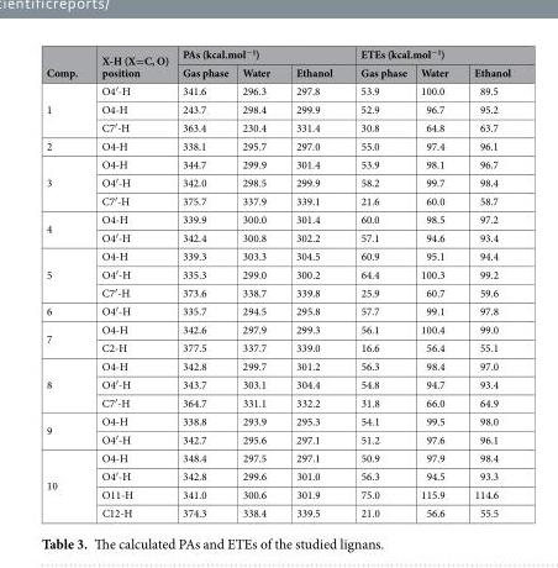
<table><thead><tr><td rowspan="2">Comp.</td><td rowspan="2">X-H (X=C, O) position</td><td colspan="3">PAs (kcal.mol<sup>−1</sup>)</td><td colspan="3">ETEs (kcal.mol<sup>−1</sup>)</td></tr><tr><td>Gas phase</td><td>Water</td><td>Ethanol</td><td>Gas phase</td><td>Water</td><td>Ethanol</td></tr></thead><tbody><tr><td rowspan="3">1</td><td>O4′-H</td><td>341.6</td><td>296.3</td><td>297.8</td><td>53.9</td><td>100.0</td><td>89.5</td></tr><tr><td>O4-H</td><td>243.7</td><td>298.4</td><td>299.9</td><td>52.9</td><td>96.7</td><td>95.2</td></tr><tr><td>C7′-H</td><td>363.4</td><td>230.4</td><td>331.4</td><td>30.8</td><td>64.8</td><td>63.7</td></tr><tr><td>2</td><td>O4-H</td><td>338.1</td><td>295.7</td><td>297.0</td><td>55.0</td><td>97.4</td><td>96.1</td></tr><tr><td rowspan="3">3</td><td>O4-H</td><td>344.7</td><td>299.9</td><td>301.4</td><td>53.9</td><td>98.1</td><td>96.7</td></tr><tr><td>O4′-H</td><td>342.0</td><td>298.5</td><td>299.9</td><td>58.2</td><td>99.7</td><td>98.4</td></tr><tr><td>C7′-H</td><td>375.7</td><td>337.9</td><td>339.1</td><td>21.6</td><td>60.0</td><td>58.7</td></tr><tr><td rowspan="2">4</td><td>O4-H</td><td>339.9</td><td>300.0</td><td>301.4</td><td>60.0</td><td>98.5</td><td>97.2</td></tr><tr><td>O4′-H</td><td>342.4</td><td>300.8</td><td>302.2</td><td>57.1</td><td>94.6</td><td>93.4</td></tr><tr><td rowspan="3">5</td><td>O4-H</td><td>339.3</td><td>303.3</td><td>304.5</td><td>60.9</td><td>95.1</td><td>94.4</td></tr><tr><td>O4′-H</td><td>335.3</td><td>299.0</td><td>300.2</td><td>64.4</td><td>100.3</td><td>99.2</td></tr><tr><td>C7′-H</td><td>373.6</td><td>338.7</td><td>339.8</td><td>25.9</td><td>60.7</td><td>59.6</td></tr><tr><td>6</td><td>O4′-H</td><td>335.7</td><td>294.5</td><td>295.8</td><td>57.7</td><td>99.1</td><td>97.8</td></tr><tr><td rowspan="2">7</td><td>O4-H</td><td>342.6</td><td>297.9</td><td>299.3</td><td>56.1</td><td>100.4</td><td>99.0</td></tr><tr><td>C2-H</td><td>377.5</td><td>337.7</td><td>339.0</td><td>16.6</td><td>56.4</td><td>55.1</td></tr><tr><td rowspan="3">8</td><td>O4-H</td><td>342.8</td><td>299.7</td><td>301.2</td><td>56.3</td><td>98.4</td><td>97.0</td></tr><tr><td>O4′-H</td><td>343.7</td><td>303.1</td><td>304.4</td><td>54.8</td><td>94.7</td><td>93.4</td></tr><tr><td>C7′-H</td><td>364.7</td><td>331.1</td><td>332.2</td><td>31.8</td><td>66.0</td><td>64.9</td></tr><tr><td rowspan="2">9</td><td>O4-H</td><td>338.8</td><td>293.9</td><td>295.3</td><td>54.1</td><td>99.5</td><td>98.0</td></tr><tr><td>O4′-H</td><td>342.7</td><td>295.6</td><td>297.1</td><td>51.2</td><td>97.6</td><td>96.1</td></tr><tr><td rowspan="4">10</td><td>O4-H</td><td>348.4</td><td>297.5</td><td>297.1</td><td>50.9</td><td>97.9</td><td>98.4</td></tr><tr><td>O4′-H</td><td>342.8</td><td>299.6</td><td>301.0</td><td>56.3</td><td>94.5</td><td>93.3</td></tr><tr><td>O11-H</td><td>341.0</td><td>300.6</td><td>301.9</td><td>75.0</td><td>115.9</td><td>114.6</td></tr><tr><td>C12-H</td><td>374.3</td><td>338.4</td><td>339.5</td><td>21.0</td><td>56.6</td><td>55.5</td></tr></tbody></table>